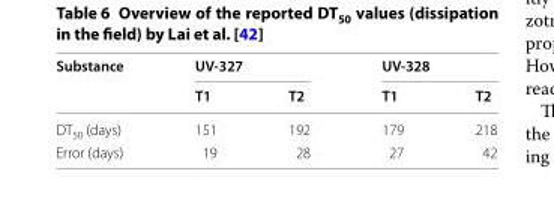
<table><thead><tr><td rowspan="2">Substance</td><td colspan="2">UV-327</td><td colspan="2">UV-328</td></tr><tr><td>T1</td><td>T2</td><td>T1</td><td>T2</td></tr></thead><tbody><tr><td>DT<sub>50</sub> (days)</td><td>151</td><td>192</td><td>179</td><td>218</td></tr><tr><td>Error (days)</td><td>19</td><td>28</td><td>27</td><td>42</td></tr></tbody></table>